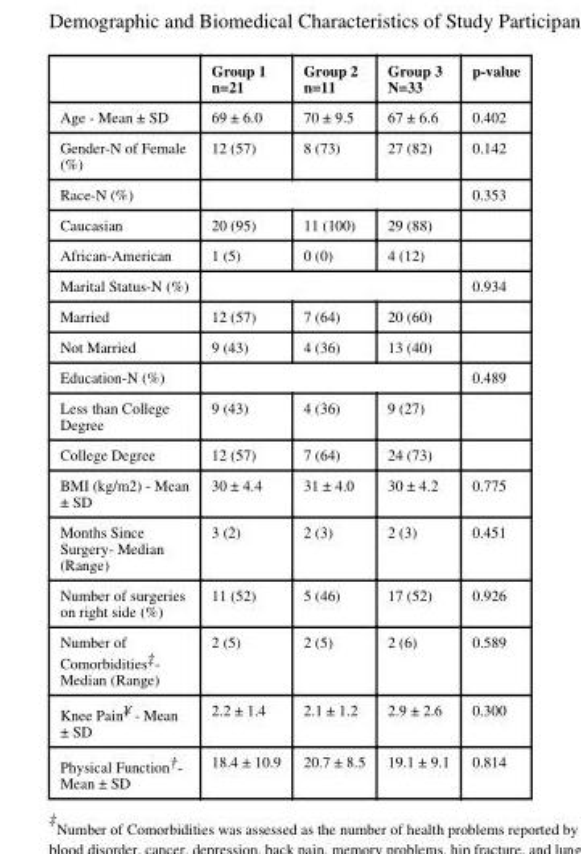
<table><thead><tr><td></td><td>Group 1 n=21</td><td>Group 2 n=11</td><td>Group 3 N=33</td><td>p-value</td></tr></thead><tbody><tr><td>Age - Mean ± SD</td><td>69 ± 6.0</td><td>70 ± 9.5</td><td>67 ± 6.6</td><td>0.402</td></tr><tr><td>Gender-N of Female (%)</td><td>12 (57)</td><td>8 (73)</td><td>27 (82)</td><td>0.142</td></tr><tr><td>Race-N (%)</td><td colspan="3"></td><td>0.353</td></tr><tr><td>Caucasian</td><td>20 (95)</td><td>11 (100)</td><td>29 (88)</td><td></td></tr><tr><td>African-American</td><td>1 (5)</td><td>0 (0)</td><td>4 (12)</td><td></td></tr><tr><td>Marital Status-N (%)</td><td colspan="3"></td><td>0.934</td></tr><tr><td>Married</td><td>12 (57)</td><td>7 (64)</td><td>20 (60)</td><td></td></tr><tr><td>Not Married</td><td>9 (43)</td><td>4 (36)</td><td>13 (40)</td><td></td></tr><tr><td>Education-N (%)</td><td colspan="3"></td><td>0.489</td></tr><tr><td>Less than College Degree</td><td>9 (43)</td><td>4 (36)</td><td>9 (27)</td><td></td></tr><tr><td>College Degree</td><td>12 (57)</td><td>7 (64)</td><td>24 (73)</td><td></td></tr><tr><td>BMI (kg/m2) - Mean ± SD</td><td>30 ± 4.4</td><td>31 ± 4.0</td><td>30 ± 4.2</td><td>0.775</td></tr><tr><td>Months Since Surgery- Median (Range)</td><td>3 (2)</td><td>2 (3)</td><td>2 (3)</td><td>0.451</td></tr><tr><td>Number of surgeries on right side (%)</td><td>11 (52)</td><td>5 (46)</td><td>17 (52)</td><td>0.926</td></tr><tr><td>Number of Comorbidities‡- Median (Range)</td><td>2 (5)</td><td>2 (5)</td><td>2 (6)</td><td>0.589</td></tr><tr><td>Knee Pain¥ - Mean ± SD</td><td>2.2 ± 1.4</td><td>2.1 ± 1.2</td><td>2.9 ± 2.6</td><td>0.300</td></tr><tr><td>Physical Function†- Mean ± SD</td><td>18.4 ± 10.9</td><td>20.7 ± 8.5</td><td>19.1 ± 9.1</td><td>0.814</td></tr></tbody></table>